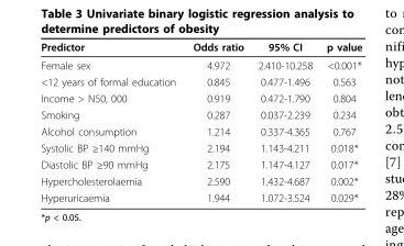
<table><thead><tr><td>Predictor</td><td>Odds ratio</td><td>95% CI</td><td>p value</td></tr></thead><tbody><tr><td>Female sex</td><td>4.972</td><td>2.410-10.258</td><td>&lt;0.001*</td></tr><tr><td>&lt;12 years of formal education</td><td>0.845</td><td>0.477-1.496</td><td>0.563</td></tr><tr><td>Income &gt; N50, 000</td><td>0.919</td><td>0.472-1.790</td><td>0.804</td></tr><tr><td>Smoking</td><td>0.287</td><td>0.037-2.239</td><td>0.234</td></tr><tr><td>Alcohol consumption</td><td>1.214</td><td>0.337-4.365</td><td>0.767</td></tr><tr><td>Systolic BP ≥140 mmHg</td><td>2.194</td><td>1.143-4.211</td><td>0.018*</td></tr><tr><td>Diastolic BP ≥90 mmHg</td><td>2.175</td><td>1.147-4.127</td><td>0.017*</td></tr><tr><td>Hypercholesterolaemia</td><td>2.590</td><td>1.432-4.687</td><td>0.002*</td></tr><tr><td>Hyperuricaemia</td><td>1.944</td><td>1.072-3.524</td><td>0.029*</td></tr></tbody></table>